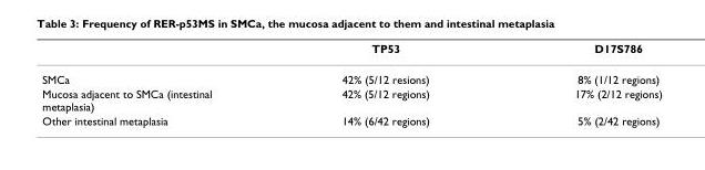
<table><thead><tr><td></td><td>TP53</td><td>D17S786</td></tr></thead><tbody><tr><td>SMCa</td><td>42% (5/12 resions)</td><td>8% (1/12 regions)</td></tr><tr><td>Mucosa adjacent to SMCa (intestinal metaplasia)</td><td>42% (5/12 regions)</td><td>17% (2/12 regions)</td></tr><tr><td>Other intestinal metaplasia</td><td>14% (6/42 regions)</td><td>5% (2/42 regions)</td></tr></tbody></table>